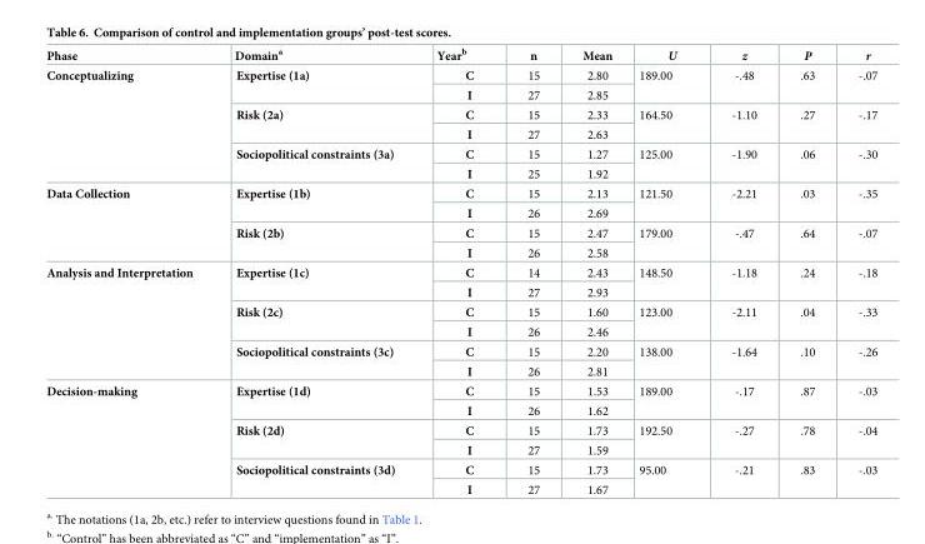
<table><thead><tr><td>Phase</td><td>Domain<sup>a</sup></td><td>Year<sup>b</sup></td><td>n</td><td>Mean</td><td>U</td><td>z</td><td>P</td><td>r</td></tr></thead><tbody><tr><td rowspan="6">Conceptualizing</td><td rowspan="2">Expertise (1a)</td><td>C</td><td>15</td><td>2.80</td><td rowspan="2">189.00</td><td rowspan="2">-.48</td><td rowspan="2">.63</td><td rowspan="2">-.07</td></tr><tr><td>I</td><td>27</td><td>2.85</td></tr><tr><td rowspan="2">Risk (2a)</td><td>C</td><td>15</td><td>2.33</td><td rowspan="2">164.50</td><td rowspan="2">-1.10</td><td rowspan="2">.27</td><td rowspan="2">-.17</td></tr><tr><td>I</td><td>27</td><td>2.63</td></tr><tr><td rowspan="2">Sociopolitical constraints (3a)</td><td>C</td><td>15</td><td>1.27</td><td rowspan="2">125.00</td><td rowspan="2">-1.90</td><td rowspan="2">.06</td><td rowspan="2">-.30</td></tr><tr><td>I</td><td>25</td><td>1.92</td></tr><tr><td rowspan="4">Data Collection</td><td rowspan="2">Expertise (1b)</td><td>C</td><td>15</td><td>2.13</td><td rowspan="2">121.50</td><td rowspan="2">-2.21</td><td rowspan="2">.03</td><td rowspan="2">-.35</td></tr><tr><td>I</td><td>26</td><td>2.69</td></tr><tr><td rowspan="2">Risk (2b)</td><td>C</td><td>15</td><td>2.47</td><td rowspan="2">179.00</td><td rowspan="2">-.47</td><td rowspan="2">.64</td><td rowspan="2">-.07</td></tr><tr><td>I</td><td>26</td><td>2.58</td></tr><tr><td rowspan="6">Analysis and Interpretation</td><td rowspan="2">Expertise (1c)</td><td>C</td><td>14</td><td>2.43</td><td rowspan="2">148.50</td><td rowspan="2">-1.18</td><td rowspan="2">.24</td><td rowspan="2">-.18</td></tr><tr><td>I</td><td>27</td><td>2.93</td></tr><tr><td rowspan="2">Risk (2c)</td><td>C</td><td>15</td><td>1.60</td><td rowspan="2">123.00</td><td rowspan="2">-2.11</td><td rowspan="2">.04</td><td rowspan="2">-.33</td></tr><tr><td>I</td><td>26</td><td>2.46</td></tr><tr><td rowspan="2">Sociopolitical constraints (3c)</td><td>C</td><td>15</td><td>2.20</td><td rowspan="2">138.00</td><td rowspan="2">-1.64</td><td rowspan="2">.10</td><td rowspan="2">-.26</td></tr><tr><td>I</td><td>26</td><td>2.81</td></tr><tr><td rowspan="6">Decision-making</td><td rowspan="2">Expertise (1d)</td><td>C</td><td>15</td><td>1.53</td><td rowspan="2">189.00</td><td rowspan="2">-.17</td><td rowspan="2">.87</td><td rowspan="2">-.03</td></tr><tr><td>I</td><td>26</td><td>1.62</td></tr><tr><td rowspan="2">Risk (2d)</td><td>C</td><td>15</td><td>1.73</td><td rowspan="2">192.50</td><td rowspan="2">-.27</td><td rowspan="2">.78</td><td rowspan="2">-.04</td></tr><tr><td>I</td><td>27</td><td>1.59</td></tr><tr><td rowspan="2">Sociopolitical constraints (3d)</td><td>C</td><td>15</td><td>1.73</td><td rowspan="2">95.00</td><td rowspan="2">-.21</td><td rowspan="2">.83</td><td rowspan="2">-.03</td></tr><tr><td>I</td><td>27</td><td>1.67</td></tr></tbody></table>